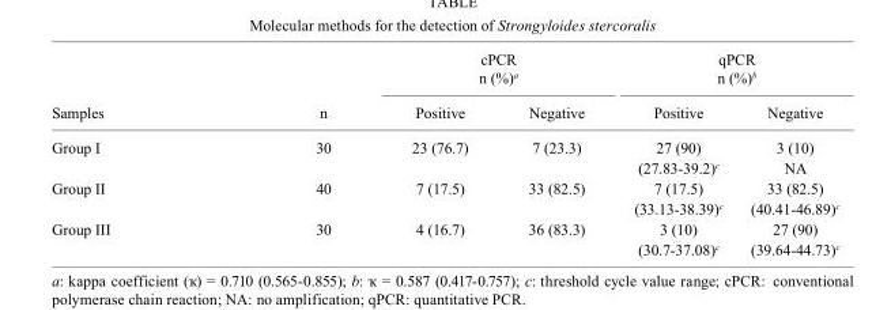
<table><thead><tr><td rowspan="2">Samples</td><td rowspan="2">n</td><td colspan="2">cPCR n (%)<sup>a</sup></td><td colspan="2">qPCR n (%)<sup>b</sup></td></tr><tr><td>Positive</td><td>Negative</td><td>Positive</td><td>Negative</td></tr></thead><tbody><tr><td rowspan="2">Group I</td><td>30</td><td>23 (76.7)</td><td>7 (23.3)</td><td>27 (90)</td><td>3 (10)</td></tr><tr><td></td><td></td><td></td><td>(27.83-39.2)<sup>c</sup></td><td>NA</td></tr><tr><td rowspan="2">Group II</td><td>40</td><td>7 (17.5)</td><td>33 (82.5)</td><td>7 (17.5)</td><td>33 (82.5)</td></tr><tr><td></td><td></td><td></td><td>(33.13-38.39)<sup>c</sup></td><td>(40.41-46.89)<sup>c</sup></td></tr><tr><td rowspan="2">Group III</td><td>30</td><td>4 (16.7)</td><td>36 (83.3)</td><td>3 (10)</td><td>27 (90)</td></tr><tr><td></td><td></td><td></td><td>(30.7-37.08)<sup>c</sup></td><td>(39.64-44.73)<sup>c</sup></td></tr></tbody></table>